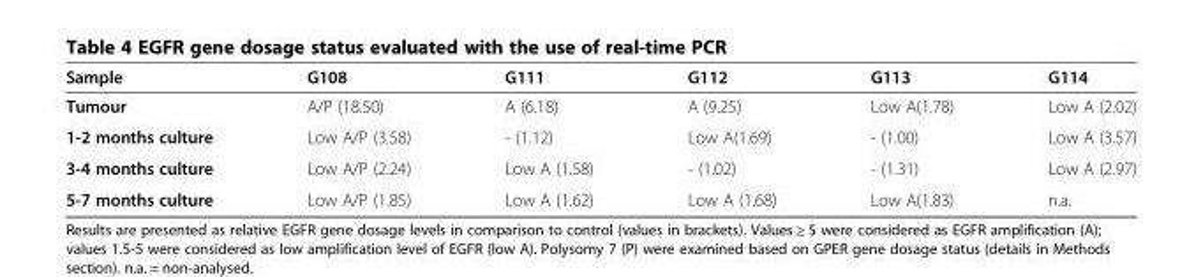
<table><thead><tr><td>Sample</td><td>G108</td><td>G111</td><td>G112</td><td>G113</td><td>G114</td></tr></thead><tbody><tr><td>Tumour</td><td>A/P (18.50)</td><td>A (6.18)</td><td>A (9.25)</td><td>Low A(1.78)</td><td>Low A (2.02)</td></tr><tr><td>1-2 months culture</td><td>Low A/P (3.58)</td><td>- (1.12)</td><td>Low A(1.69)</td><td>- (1.00)</td><td>Low A (3.57)</td></tr><tr><td>3-4 months culture</td><td>Low A/P (2.24)</td><td>Low A (1.58)</td><td>- (1.02)</td><td>- (1.31)</td><td>Low A (2.97)</td></tr><tr><td>5-7 months culture</td><td>Low A/P (1.85)</td><td>Low A (1.62)</td><td>Low A (1.68)</td><td>Low A(1.83)</td><td>n.a.</td></tr></tbody></table>